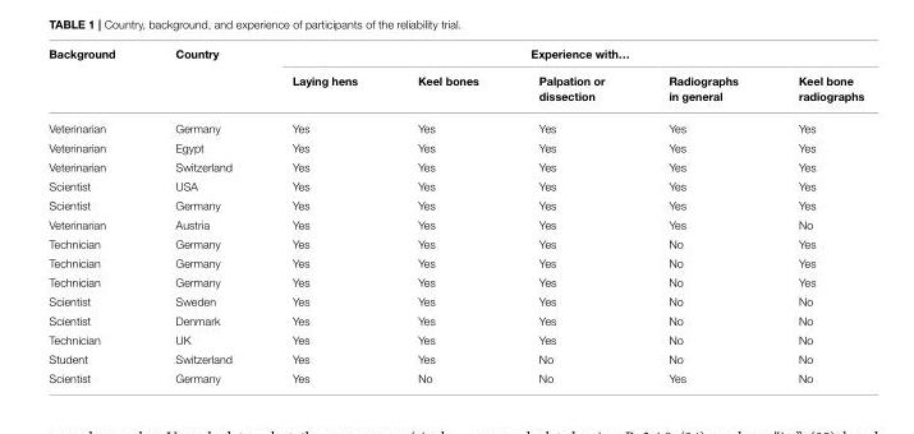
<table><thead><tr><td rowspan="2">Background</td><td rowspan="2">Country</td><td colspan="5">Experience with…</td></tr><tr><td>Laying hens</td><td>Keel bones</td><td>Palpation or dissection</td><td>Radiographs in general</td><td>Keel bone radiographs</td></tr></thead><tbody><tr><td>Veterinarian</td><td>Germany</td><td>Yes</td><td>Yes</td><td>Yes</td><td>Yes</td><td>Yes</td></tr><tr><td>Veterinarian</td><td>Egypt</td><td>Yes</td><td>Yes</td><td>Yes</td><td>Yes</td><td>Yes</td></tr><tr><td>Veterinarian</td><td>Switzerland</td><td>Yes</td><td>Yes</td><td>Yes</td><td>Yes</td><td>Yes</td></tr><tr><td>Scientist</td><td>USA</td><td>Yes</td><td>Yes</td><td>Yes</td><td>Yes</td><td>Yes</td></tr><tr><td>Scientist</td><td>Germany</td><td>Yes</td><td>Yes</td><td>Yes</td><td>Yes</td><td>Yes</td></tr><tr><td>Veterinarian</td><td>Austria</td><td>Yes</td><td>Yes</td><td>Yes</td><td>Yes</td><td>No</td></tr><tr><td>Technician</td><td>Germany</td><td>Yes</td><td>Yes</td><td>Yes</td><td>No</td><td>Yes</td></tr><tr><td>Technician</td><td>Germany</td><td>Yes</td><td>Yes</td><td>Yes</td><td>No</td><td>Yes</td></tr><tr><td>Technician</td><td>Germany</td><td>Yes</td><td>Yes</td><td>Yes</td><td>No</td><td>Yes</td></tr><tr><td>Scientist</td><td>Sweden</td><td>Yes</td><td>Yes</td><td>Yes</td><td>No</td><td>No</td></tr><tr><td>Scientist</td><td>Denmark</td><td>Yes</td><td>Yes</td><td>Yes</td><td>No</td><td>No</td></tr><tr><td>Technician</td><td>UK</td><td>Yes</td><td>Yes</td><td>Yes</td><td>No</td><td>No</td></tr><tr><td>Student</td><td>Switzerland</td><td>Yes</td><td>Yes</td><td>No</td><td>No</td><td>No</td></tr><tr><td>Scientist</td><td>Germany</td><td>Yes</td><td>No</td><td>No</td><td>Yes</td><td>No</td></tr></tbody></table>